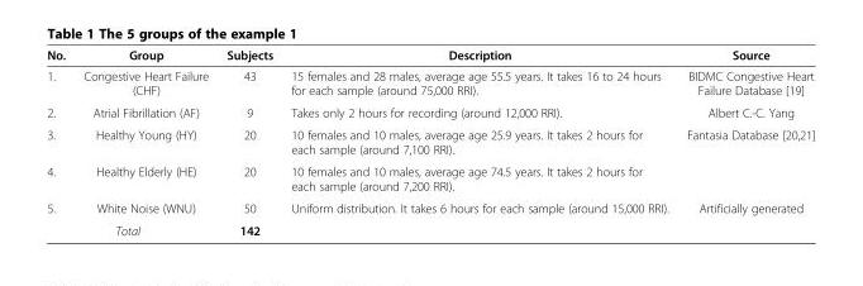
<table><thead><tr><td>No.</td><td>Group</td><td>Subjects</td><td>Description</td><td>Source</td></tr></thead><tbody><tr><td>1.</td><td>Congestive Heart Failure (CHF)</td><td>43</td><td>15 females and 28 males, average age 55.5 years. It takes 16 to 24 hours for each sample (around 75,000 RRI).</td><td>BIDMC Congestive Heart Failure Database [19]</td></tr><tr><td>2.</td><td>Atrial Fibrillation (AF)</td><td>9</td><td>Takes only 2 hours for recording (around 12,000 RRI).</td><td>Albert C.-C. Yang</td></tr><tr><td>3.</td><td>Healthy Young (HY)</td><td>20</td><td>10 females and 10 males, average age 25.9 years. It takes 2 hours for each sample (around 7,100 RRI).</td><td rowspan="2">Fantasia Database [20,21]</td></tr><tr><td>4.</td><td>Healthy Elderly (HE)</td><td>20</td><td>10 females and 10 males, average age 74.5 years. It takes 2 hours for each sample (around 7,200 RRI).</td></tr><tr><td rowspan="2">5.</td><td>White Noise (WNU)</td><td>50</td><td>Uniform distribution. It takes 6 hours for each sample (around 15,000 RRI).</td><td>Artificially generated</td></tr><tr><td>Total</td><td>142</td><td></td><td></td></tr></tbody></table>